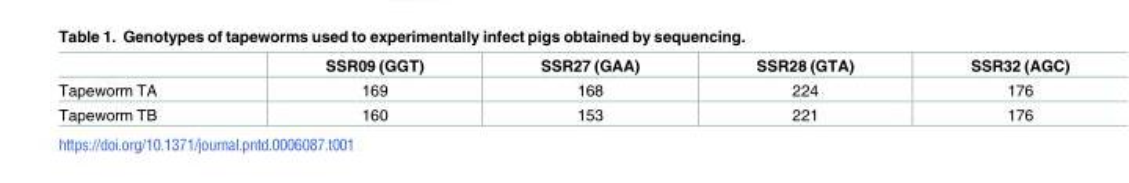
<table><thead><tr><td></td><td>SSR09 (GGT)</td><td>SSR27 (GAA)</td><td>SSR28 (GTA)</td><td>SSR32 (AGC)</td></tr></thead><tbody><tr><td>Tapeworm TA</td><td>169</td><td>168</td><td>224</td><td>176</td></tr><tr><td>Tapeworm TB</td><td>160</td><td>153</td><td>221</td><td>176</td></tr></tbody></table>